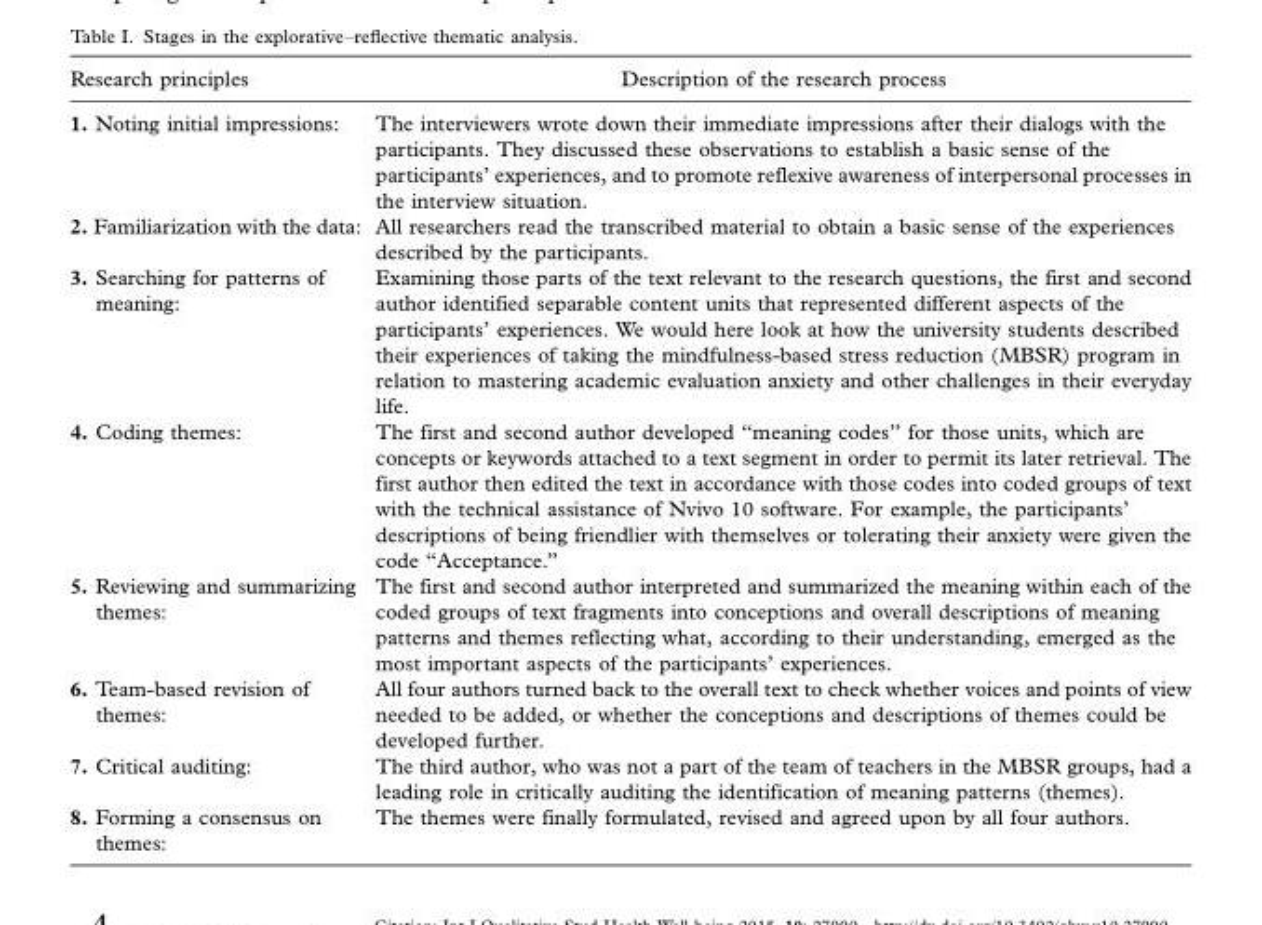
<table><thead><tr><td>Research principles</td><td>Description of the research process</td></tr></thead><tbody><tr><td>1. Noting initial impressions:</td><td>The interviewers wrote down their immediate impressions after their dialogs with the participants. They discussed these observations to establish a basic sense of the participants’ experiences, and to promote reflexive awareness of interpersonal processes in the interview situation.</td></tr><tr><td>2. Familiarization with the data:</td><td>All researchers read the transcribed material to obtain a basic sense of the experiences described by the participants.</td></tr><tr><td>3. Searching for patterns of meaning:</td><td>Examining those parts of the text relevant to the research questions, the first and second author identified separable content units that represented different aspects of the participants’ experiences. We would here look at how the university students described their experiences of taking the mindfulness-based stress reduction (MBSR) program in relation to mastering academic evaluation anxiety and other challenges in their everyday life.</td></tr><tr><td>4. Coding themes:</td><td>The first and second author developed ‘‘meaning codes’’ for those units, which are concepts or keywords attached to a text segment in order to permit its later retrieval. The first author then edited the text in accordance with those codes into coded groups of text with the technical assistance of Nvivo 10 software. For example, the participants’ descriptions of being friendlier with themselves or tolerating their anxiety were given the code ‘‘Acceptance.’’</td></tr><tr><td>5. Reviewing and summarizing themes:</td><td>The first and second author interpreted and summarized the meaning within each of the coded groups of text fragments into conceptions and overall descriptions of meaning patterns and themes reflecting what, according to their understanding, emerged as the most important aspects of the participants’ experiences.</td></tr><tr><td>6. Team-based revision of themes:</td><td>All four authors turned back to the overall text to check whether voices and points of view needed to be added, or whether the conceptions and descriptions of themes could be developed further.</td></tr><tr><td>7. Critical auditing:</td><td>The third author, who was not a part of the team of teachers in the MBSR groups, had a leading role in critically auditing the identification of meaning patterns (themes).</td></tr><tr><td>8. Forming a consensus on themes:</td><td>The themes were finally formulated, revised and agreed upon by all four authors.</td></tr></tbody></table>